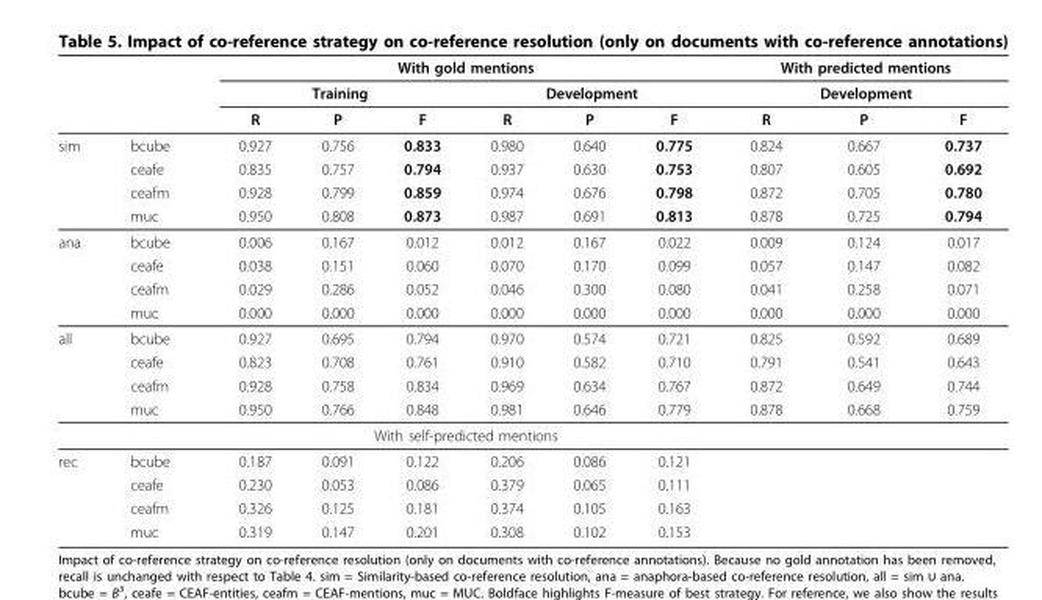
<table><thead><tr><td rowspan="3"></td><td rowspan="3"></td><td colspan="6">With gold mentions</td><td rowspan="2" colspan="3">With predicted mentions Development</td></tr><tr><td colspan="3">Training</td><td colspan="3">Development</td></tr><tr><td>R</td><td>P</td><td>F</td><td>R</td><td>P</td><td>F</td><td>R</td><td>P</td><td>F</td></tr></thead><tbody><tr><td rowspan="4">sim</td><td>bcube</td><td>0.927</td><td>0.756</td><td>0.833</td><td>0.980</td><td>0.640</td><td>0.775</td><td>0.824</td><td>0.667</td><td>0.737</td></tr><tr><td>ceafe</td><td>0.835</td><td>0.757</td><td>0.794</td><td>0.937</td><td>0.630</td><td>0.753</td><td>0.807</td><td>0.605</td><td>0.692</td></tr><tr><td>ceafm</td><td>0.928</td><td>0.799</td><td>0.859</td><td>0.974</td><td>0.676</td><td>0.798</td><td>0.872</td><td>0.705</td><td>0.780</td></tr><tr><td>muc</td><td>0.950</td><td>0.808</td><td>0.873</td><td>0.987</td><td>0.691</td><td>0.813</td><td>0.878</td><td>0.725</td><td>0.794</td></tr><tr><td rowspan="4">ana</td><td>bcube</td><td>0.006</td><td>0.167</td><td>0.012</td><td>0.012</td><td>0.167</td><td>0.022</td><td>0.009</td><td>0.124</td><td>0.017</td></tr><tr><td>ceafe</td><td>0.038</td><td>0.151</td><td>0.060</td><td>0.070</td><td>0.170</td><td>0.099</td><td>0.057</td><td>0.147</td><td>0.082</td></tr><tr><td>ceafm</td><td>0.029</td><td>0.286</td><td>0.052</td><td>0.046</td><td>0.300</td><td>0.080</td><td>0.041</td><td>0.258</td><td>0.071</td></tr><tr><td>muc</td><td>0.000</td><td>0.000</td><td>0.000</td><td>0.000</td><td>0.000</td><td>0.000</td><td>0.000</td><td>0.000</td><td>0.000</td></tr><tr><td rowspan="4">all</td><td>bcube</td><td>0.927</td><td>0.695</td><td>0.794</td><td>0.970</td><td>0.574</td><td>0.721</td><td>0.825</td><td>0.592</td><td>0.689</td></tr><tr><td>ceafe</td><td>0.823</td><td>0.708</td><td>0.761</td><td>0.910</td><td>0.582</td><td>0.710</td><td>0.791</td><td>0.541</td><td>0.643</td></tr><tr><td>ceafm</td><td>0.928</td><td>0.758</td><td>0.834</td><td>0.969</td><td>0.634</td><td>0.767</td><td>0.872</td><td>0.649</td><td>0.744</td></tr><tr><td>muc</td><td>0.950</td><td>0.766</td><td>0.848</td><td>0.981</td><td>0.646</td><td>0.779</td><td>0.878</td><td>0.668</td><td>0.759</td></tr><tr><td colspan="2"></td><td colspan="6">With self-predicted mentions</td><td colspan="3"></td></tr><tr><td rowspan="4">rec</td><td>bcube</td><td>0.187</td><td>0.091</td><td>0.122</td><td>0.206</td><td>0.086</td><td>0.121</td><td colspan="3"></td></tr><tr><td>ceafe</td><td>0.230</td><td>0.053</td><td>0.086</td><td>0.379</td><td>0.065</td><td>0.111</td><td colspan="3"></td></tr><tr><td>ceafm</td><td>0.326</td><td>0.125</td><td>0.181</td><td>0.374</td><td>0.105</td><td>0.163</td><td colspan="3"></td></tr><tr><td>muc</td><td>0.319</td><td>0.147</td><td>0.201</td><td>0.308</td><td>0.102</td><td>0.153</td><td colspan="3"></td></tr></tbody></table>